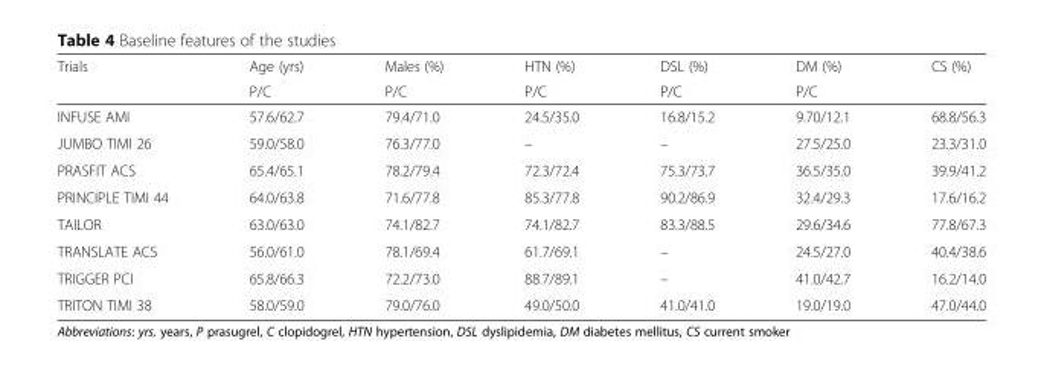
<table><thead><tr><td rowspan="2">Trials</td><td rowspan="2">Age (yrs) P/C</td><td rowspan="2">Males (%) P/C</td><td rowspan="2">HTN (%) P/C</td><td rowspan="2">DSL (%) P/C</td><td rowspan="2">DM (%) P/C</td><td rowspan="2">CS (%)</td></tr><tr></tr></thead><tbody><tr><td>INFUSE AMI</td><td>57.6/62.7</td><td>79.4/71.0</td><td>24.5/35.0</td><td>16.8/15.2</td><td>9.70/12.1</td><td>68.8/56.3</td></tr><tr><td>JUMBO TIMI 26</td><td>59.0/58.0</td><td>76.3/77.0</td><td>–</td><td>–</td><td>27.5/25.0</td><td>23.3/31.0</td></tr><tr><td>PRASFIT ACS</td><td>65.4/65.1</td><td>78.2/79.4</td><td>72.3/72.4</td><td>75.3/73.7</td><td>36.5/35.0</td><td>39.9/41.2</td></tr><tr><td>PRINCIPLE TIMI 44</td><td>64.0/63.8</td><td>71.6/77.8</td><td>85.3/77.8</td><td>90.2/86.9</td><td>32.4/29.3</td><td>17.6/16.2</td></tr><tr><td>TAILOR</td><td>63.0/63.0</td><td>74.1/82.7</td><td>74.1/82.7</td><td>83.3/88.5</td><td>29.6/34.6</td><td>77.8/67.3</td></tr><tr><td>TRANSLATE ACS</td><td>56.0/61.0</td><td>78.1/69.4</td><td>61.7/69.1</td><td>–</td><td>24.5/27.0</td><td>40.4/38.6</td></tr><tr><td>TRIGGER PCI</td><td>65.8/66.3</td><td>72.2/73.0</td><td>88.7/89.1</td><td>–</td><td>41.0/42.7</td><td>16.2/14.0</td></tr><tr><td>TRITON TIMI 38</td><td>58.0/59.0</td><td>79.0/76.0</td><td>49.0/50.0</td><td>41.0/41.0</td><td>19.0/19.0</td><td>47.0/44.0</td></tr></tbody></table>